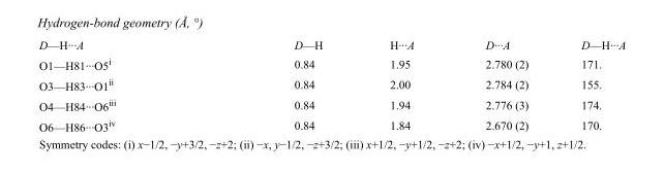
<table><tbody><tr><td>D—H···A</td><td>D—H</td><td>H···A</td><td>D···A</td><td>D—H···A</td></tr><tr><td>O1—H81···O5<sup>i</sup></td><td>0.84</td><td>1.95</td><td>2.780 (2)</td><td>171.</td></tr><tr><td>O3—H83···O1<sup>ii</sup></td><td>0.84</td><td>2.00</td><td>2.784 (2)</td><td>155.</td></tr><tr><td>O4—H84···O6<sup>iii</sup></td><td>0.84</td><td>1.94</td><td>2.776 (3)</td><td>174.</td></tr><tr><td>O6—H86···O3<sup>iv</sup></td><td>0.84</td><td>1.84</td><td>2.670 (2)</td><td>170.</td></tr></tbody></table>